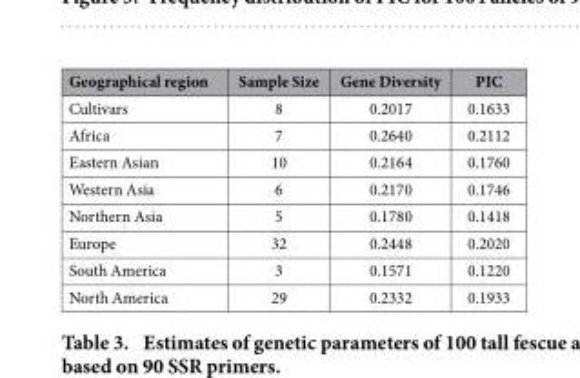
<table><thead><tr><td>Geographical region</td><td>Sample Size</td><td>Gene Diversity</td><td>PIC</td></tr></thead><tbody><tr><td>Cultivars</td><td>8</td><td>0.2017</td><td>0.1633</td></tr><tr><td>Africa</td><td>7</td><td>0.2640</td><td>0.2112</td></tr><tr><td>Eastern Asian</td><td>10</td><td>0.2164</td><td>0.1760</td></tr><tr><td>Western Asia</td><td>6</td><td>0.2170</td><td>0.1746</td></tr><tr><td>Northern Asia</td><td>5</td><td>0.1780</td><td>0.1418</td></tr><tr><td>Europe</td><td>32</td><td>0.2448</td><td>0.2020</td></tr><tr><td>South America</td><td>3</td><td>0.1571</td><td>0.1220</td></tr><tr><td>North America</td><td>29</td><td>0.2332</td><td>0.1933</td></tr></tbody></table>